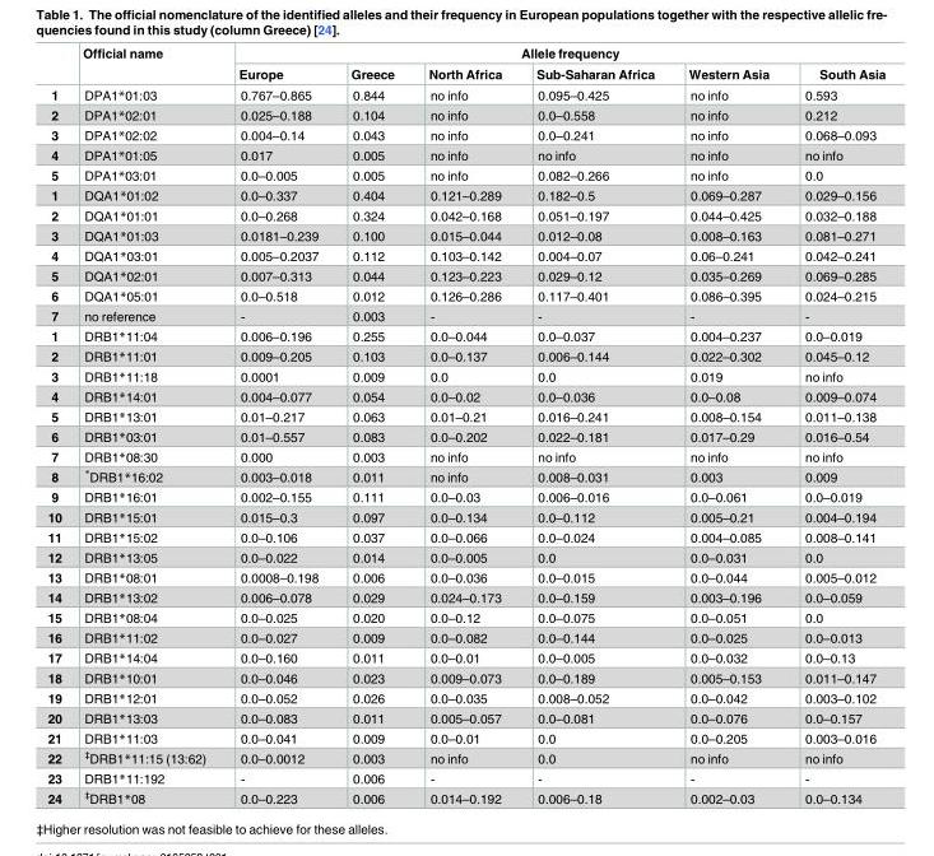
<table><thead><tr><td rowspan="2"></td><td rowspan="2">Official name</td><td colspan="6">Allele frequency</td></tr><tr><td>Europe</td><td>Greece</td><td>North Africa</td><td>Sub-Saharan Africa</td><td>Western Asia</td><td>South Asia</td></tr></thead><tbody><tr><td>1</td><td>DPA1*01:03</td><td>0.767–0.865</td><td>0.844</td><td>no info</td><td>0.095–0.425</td><td>no info</td><td>0.593</td></tr><tr><td>2</td><td>DPA1*02:01</td><td>0.025–0.188</td><td>0.104</td><td>no info</td><td>0.0–0.558</td><td>no info</td><td>0.212</td></tr><tr><td>3</td><td>DPA1*02:02</td><td>0.004–0.14</td><td>0.043</td><td>no info</td><td>0.0–0.241</td><td>no info</td><td>0.068–0.093</td></tr><tr><td>4</td><td>DPA1*01:05</td><td>0.017</td><td>0.005</td><td>no info</td><td>no info</td><td>no info</td><td>no info</td></tr><tr><td>5</td><td>DPA1*03:01</td><td>0.0–0.005</td><td>0.005</td><td>no info</td><td>0.082–0.266</td><td>no info</td><td>0.0</td></tr><tr><td>1</td><td>DQA1*01:02</td><td>0.0–0.337</td><td>0.404</td><td>0.121–0.289</td><td>0.182–0.5</td><td>0.069–0.287</td><td>0.029–0.156</td></tr><tr><td>2</td><td>DQA1*01:01</td><td>0.0–0.268</td><td>0.324</td><td>0.042–0.168</td><td>0.051–0.197</td><td>0.044–0.425</td><td>0.032–0.188</td></tr><tr><td>3</td><td>DQA1*01:03</td><td>0.0181–0.239</td><td>0.100</td><td>0.015–0.044</td><td>0.012–0.08</td><td>0.008–0.163</td><td>0.081–0.271</td></tr><tr><td>4</td><td>DQA1*03:01</td><td>0.005–0.2037</td><td>0.112</td><td>0.103–0.142</td><td>0.004–0.07</td><td>0.06–0.241</td><td>0.042–0.241</td></tr><tr><td>5</td><td>DQA1*02:01</td><td>0.007–0.313</td><td>0.044</td><td>0.123–0.223</td><td>0.029–0.12</td><td>0.035–0.269</td><td>0.069–0.285</td></tr><tr><td>6</td><td>DQA1*05:01</td><td>0.0–0.518</td><td>0.012</td><td>0.126–0.286</td><td>0.117–0.401</td><td>0.086–0.395</td><td>0.024–0.215</td></tr><tr><td>7</td><td>no reference</td><td>-</td><td>0.003</td><td>-</td><td>-</td><td>-</td><td>-</td></tr><tr><td>1</td><td>DRB1*11:04</td><td>0.006–0.196</td><td>0.255</td><td>0.0–0.044</td><td>0.0–0.037</td><td>0.004–0.237</td><td>0.0–0.019</td></tr><tr><td>2</td><td>DRB1*11:01</td><td>0.009–0.205</td><td>0.103</td><td>0.0–0.137</td><td>0.006–0.144</td><td>0.022–0.302</td><td>0.045–0.12</td></tr><tr><td>3</td><td>DRB1*11:18</td><td>0.0001</td><td>0.009</td><td>0.0</td><td>0.0</td><td>0.019</td><td>no info</td></tr><tr><td>4</td><td>DRB1*14:01</td><td>0.004–0.077</td><td>0.054</td><td>0.0–0.02</td><td>0.0–0.036</td><td>0.0–0.08</td><td>0.009–0.074</td></tr><tr><td>5</td><td>DRB1*13:01</td><td>0.01–0.217</td><td>0.063</td><td>0.01–0.21</td><td>0.016–0.241</td><td>0.008–0.154</td><td>0.011–0.138</td></tr><tr><td>6</td><td>DRB1*03:01</td><td>0.01–0.557</td><td>0.083</td><td>0.0–0.202</td><td>0.022–0.181</td><td>0.017–0.29</td><td>0.016–0.54</td></tr><tr><td>7</td><td>DRB1*08:30</td><td>0.000</td><td>0.003</td><td>no info</td><td>no info</td><td>no info</td><td>no info</td></tr><tr><td>8</td><td>*DRB1*16:02</td><td>0.003–0.018</td><td>0.011</td><td>no info</td><td>0.008–0.031</td><td>0.003</td><td>0.009</td></tr><tr><td>9</td><td>DRB1*16:01</td><td>0.002–0.155</td><td>0.111</td><td>0.0–0.03</td><td>0.006–0.016</td><td>0.0–0.061</td><td>0.0–0.019</td></tr><tr><td>10</td><td>DRB1*15:01</td><td>0.015–0.3</td><td>0.097</td><td>0.0–0.134</td><td>0.0–0.112</td><td>0.005–0.21</td><td>0.004–0.194</td></tr><tr><td>11</td><td>DRB1*15:02</td><td>0.0–0.106</td><td>0.037</td><td>0.0–0.066</td><td>0.0–0.024</td><td>0.004–0.085</td><td>0.008–0.141</td></tr><tr><td>12</td><td>DRB1*13:05</td><td>0.0–0.022</td><td>0.014</td><td>0.0–0.005</td><td>0.0</td><td>0.0–0.031</td><td>0.0</td></tr><tr><td>13</td><td>DRB1*08:01</td><td>0.0008–0.198</td><td>0.006</td><td>0.0–0.036</td><td>0.0–0.015</td><td>0.0–0.044</td><td>0.005–0.012</td></tr><tr><td>14</td><td>DRB1*13:02</td><td>0.006–0.078</td><td>0.029</td><td>0.024–0.173</td><td>0.0–0.159</td><td>0.003–0.196</td><td>0.0–0.059</td></tr><tr><td>15</td><td>DRB1*08:04</td><td>0.0–0.025</td><td>0.020</td><td>0.0–0.12</td><td>0.0–0.075</td><td>0.0–0.051</td><td>0.0</td></tr><tr><td>16</td><td>DRB1*11:02</td><td>0.0–0.027</td><td>0.009</td><td>0.0–0.082</td><td>0.0–0.144</td><td>0.0–0.025</td><td>0.0–0.013</td></tr><tr><td>17</td><td>DRB1*14:04</td><td>0.0–0.160</td><td>0.011</td><td>0.0–0.01</td><td>0.0–0.005</td><td>0.0–0.032</td><td>0.0–0.13</td></tr><tr><td>18</td><td>DRB1*10:01</td><td>0.0–0.046</td><td>0.023</td><td>0.009–0.073</td><td>0.0–0.189</td><td>0.005–0.153</td><td>0.011–0.147</td></tr><tr><td>19</td><td>DRB1*12:01</td><td>0.0–0.052</td><td>0.026</td><td>0.0–0.035</td><td>0.008–0.052</td><td>0.0–0.042</td><td>0.003–0.102</td></tr><tr><td>20</td><td>DRB1*13:03</td><td>0.0–0.083</td><td>0.011</td><td>0.005–0.057</td><td>0.0–0.081</td><td>0.0–0.076</td><td>0.0–0.157</td></tr><tr><td>21</td><td>DRB1*11:03</td><td>0.0–0.041</td><td>0.009</td><td>0.0–0.01</td><td>0.0</td><td>0.0–0.205</td><td>0.003–0.016</td></tr><tr><td>22</td><td><sup>‡</sup>DRB1*11:15 (13:62)</td><td>0.0–0.0012</td><td>0.003</td><td>no info</td><td>0.0</td><td>no info</td><td>no info</td></tr><tr><td>23</td><td>DRB1*11:192</td><td>-</td><td>0.006</td><td>-</td><td>-</td><td>-</td><td>-</td></tr><tr><td>24</td><td><sup>‡</sup>DRB1*08</td><td>0.0–0.223</td><td>0.006</td><td>0.014–0.192</td><td>0.006–0.18</td><td>0.002–0.03</td><td>0.0–0.134</td></tr></tbody></table>